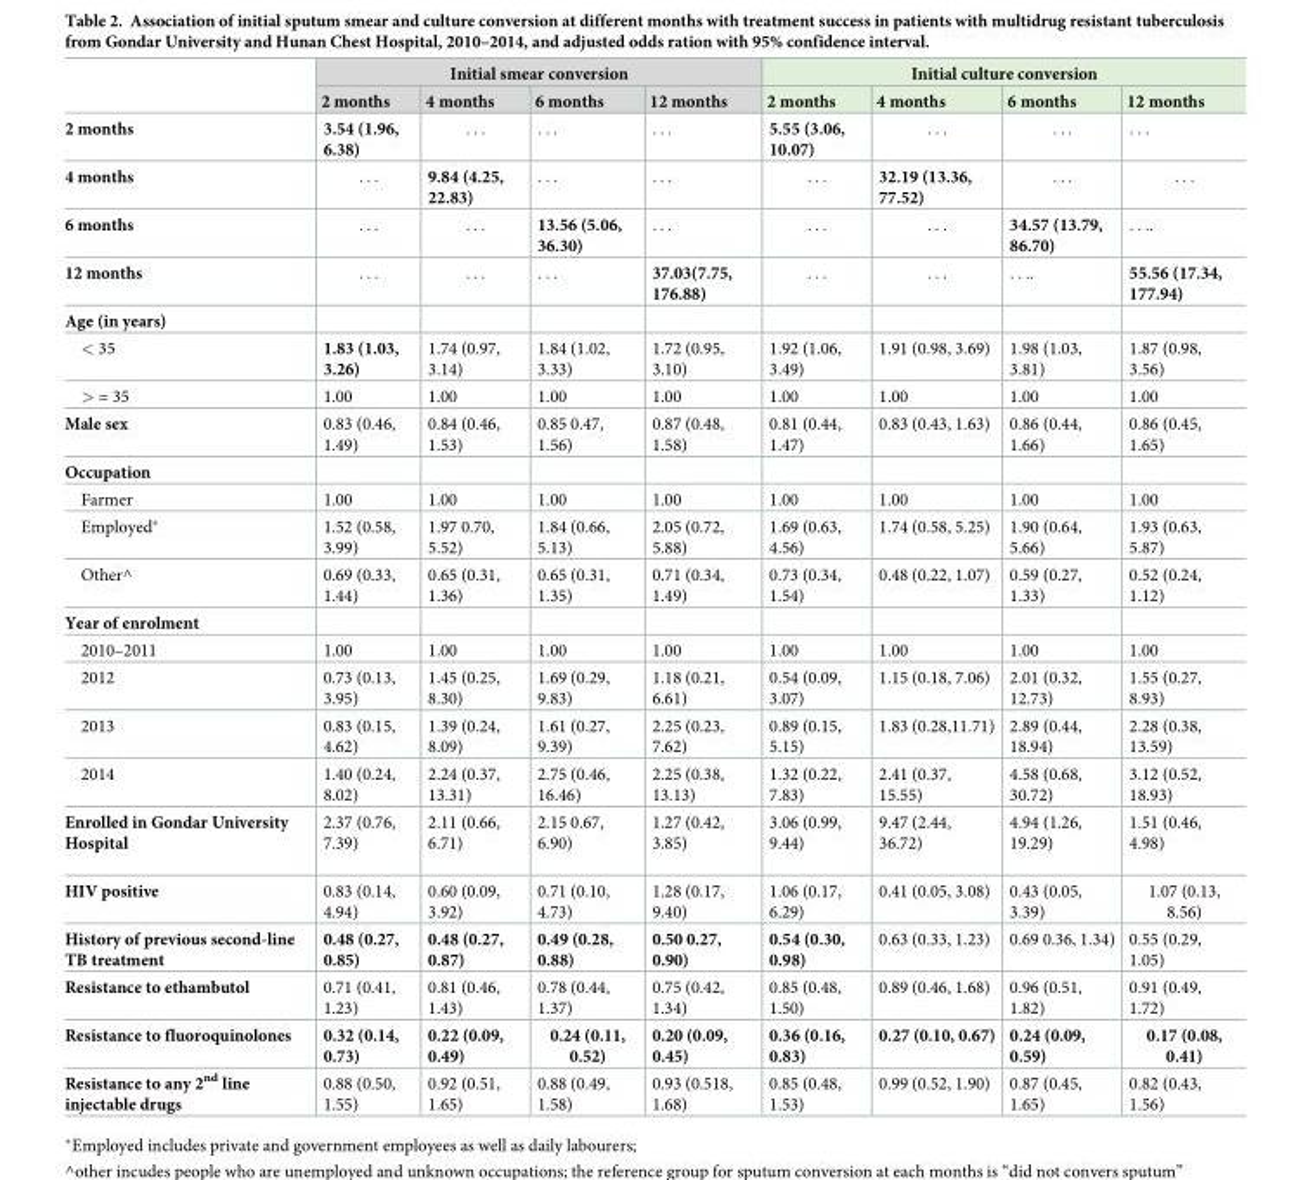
<table><thead><tr><td rowspan="2"></td><td colspan="4">Initial smear conversion</td><td colspan="4">Initial culture conversion</td></tr><tr><td>2 months</td><td>4 months</td><td>6 months</td><td>12 months</td><td>2 months</td><td>4 months</td><td>6 months</td><td>12 months</td></tr></thead><tbody><tr><td>2 months</td><td>3.54 (1.96, 6.38)</td><td>. . .</td><td>. . .</td><td>. . .</td><td>5.55 (3.06, 10.07)</td><td>. . .</td><td>. . .</td><td>. . .</td></tr><tr><td>4 months</td><td>. . .</td><td>9.84 (4.25, 22.83)</td><td>. . .</td><td>. . .</td><td>. . .</td><td>32.19 (13.36, 77.52)</td><td>. . .</td><td>. . .</td></tr><tr><td>6 months</td><td>. . .</td><td>. . .</td><td>13.56 (5.06, 36.30)</td><td>. . .</td><td>. . .</td><td>. . .</td><td>34.57 (13.79, 86.70)</td><td>. . ..</td></tr><tr><td>12 months</td><td>. . .</td><td>. . .</td><td>. . .</td><td>37.03(7.75, 176.88)</td><td>. . .</td><td>. . .</td><td>. . ..</td><td>55.56 (17.34, 177.94)</td></tr><tr><td colspan="9">Age (in years)</td></tr><tr><td>&lt; 35</td><td>1.83 (1.03, 3.26)</td><td>1.74 (0.97, 3.14)</td><td>1.84 (1.02, 3.33)</td><td>1.72 (0.95, 3.10)</td><td>1.92 (1.06, 3.49)</td><td>1.91 (0.98, 3.69)</td><td>1.98 (1.03, 3.81)</td><td>1.87 (0.98, 3.56)</td></tr><tr><td>&gt; = 35</td><td>1.00</td><td>1.00</td><td>1.00</td><td>1.00</td><td>1.00</td><td>1.00</td><td>1.00</td><td>1.00</td></tr><tr><td>Male sex</td><td>0.83 (0.46, 1.49)</td><td>0.84 (0.46, 1.53)</td><td>0.85 0.47, 1.56)</td><td>0.87 (0.48, 1.58)</td><td>0.81 (0.44, 1.47)</td><td>0.83 (0.43, 1.63)</td><td>0.86 (0.44, 1.66)</td><td>0.86 (0.45, 1.65)</td></tr><tr><td colspan="9">Occupation</td></tr><tr><td>Farmer</td><td>1.00</td><td>1.00</td><td>1.00</td><td>1.00</td><td>1.00</td><td>1.00</td><td>1.00</td><td>1.00</td></tr><tr><td>Employed*</td><td>1.52 (0.58, 3.99)</td><td>1.97 0.70, 5.52)</td><td>1.84 (0.66, 5.13)</td><td>2.05 (0.72, 5.88)</td><td>1.69 (0.63, 4.56)</td><td>1.74 (0.58, 5.25)</td><td>1.90 (0.64, 5.66)</td><td>1.93 (0.63, 5.87)</td></tr><tr><td>Other^</td><td>0.69 (0.33, 1.44)</td><td>0.65 (0.31, 1.36)</td><td>0.65 (0.31, 1.35)</td><td>0.71 (0.34, 1.49)</td><td>0.73 (0.34, 1.54)</td><td>0.48 (0.22, 1.07)</td><td>0.59 (0.27, 1.33)</td><td>0.52 (0.24, 1.12)</td></tr><tr><td colspan="9">Year of enrolment</td></tr><tr><td>2010–2011</td><td>1.00</td><td>1.00</td><td>1.00</td><td>1.00</td><td>1.00</td><td>1.00</td><td>1.00</td><td>1.00</td></tr><tr><td>2012</td><td>0.73 (0.13, 3.95)</td><td>1.45 (0.25, 8.30)</td><td>1.69 (0.29, 9.83)</td><td>1.18 (0.21, 6.61)</td><td>0.54 (0.09, 3.07)</td><td>1.15 (0.18, 7.06)</td><td>2.01 (0.32, 12.73)</td><td>1.55 (0.27, 8.93)</td></tr><tr><td>2013</td><td>0.83 (0.15, 4.62)</td><td>1.39 (0.24, 8.09)</td><td>1.61 (0.27, 9.39)</td><td>2.25 (0.23, 7.62)</td><td>0.89 (0.15, 5.15)</td><td>1.83 (0.28,11.71)</td><td>2.89 (0.44, 18.94)</td><td>2.28 (0.38, 13.59)</td></tr><tr><td>2014</td><td>1.40 (0.24, 8.02)</td><td>2.24 (0.37, 13.31)</td><td>2.75 (0.46, 16.46)</td><td>2.25 (0.38, 13.13)</td><td>1.32 (0.22, 7.83)</td><td>2.41 (0.37, 15.55)</td><td>4.58 (0.68, 30.72)</td><td>3.12 (0.52, 18.93)</td></tr><tr><td>Enrolled in Gondar University Hospital</td><td>2.37 (0.76, 7.39)</td><td>2.11 (0.66, 6.71)</td><td>2.15 0.67, 6.90)</td><td>1.27 (0.42, 3.85)</td><td>3.06 (0.99, 9.44)</td><td>9.47 (2.44, 36.72)</td><td>4.94 (1.26, 19.29)</td><td>1.51 (0.46, 4.98)</td></tr><tr><td>HIV positive</td><td>0.83 (0.14, 4.94)</td><td>0.60 (0.09, 3.92)</td><td>0.71 (0.10, 4.73)</td><td>1.28 (0.17, 9.40)</td><td>1.06 (0.17, 6.29)</td><td>0.41 (0.05, 3.08)</td><td>0.43 (0.05, 3.39)</td><td>1.07 (0.13, 8.56)</td></tr><tr><td>History of previous second-line TB treatment</td><td>0.48 (0.27, 0.85)</td><td>0.48 (0.27, 0.87)</td><td>0.49 (0.28, 0.88)</td><td>0.50 0.27, 0.90)</td><td>0.54 (0.30, 0.98)</td><td>0.63 (0.33, 1.23)</td><td>0.69 0.36, 1.34)</td><td>0.55 (0.29, 1.05)</td></tr><tr><td>Resistance to ethambutol</td><td>0.71 (0.41, 1.23)</td><td>0.81 (0.46, 1.43)</td><td>0.78 (0.44, 1.37)</td><td>0.75 (0.42, 1.34)</td><td>0.85 (0.48, 1.50)</td><td>0.89 (0.46, 1.68)</td><td>0.96 (0.51, 1.82)</td><td>0.91 (0.49, 1.72)</td></tr><tr><td>Resistance to fluoroquinolones</td><td>0.32 (0.14, 0.73)</td><td>0.22 (0.09, 0.49)</td><td>0.24 (0.11, 0.52)</td><td>0.20 (0.09, 0.45)</td><td>0.36 (0.16, 0.83)</td><td>0.27 (0.10, 0.67)</td><td>0.24 (0.09, 0.59)</td><td>0.17 (0.08, 0.41)</td></tr><tr><td>Resistance to any 2<sup>nd</sup> line injectable drugs</td><td>0.88 (0.50, 1.55)</td><td>0.92 (0.51, 1.65)</td><td>0.88 (0.49, 1.58)</td><td>0.93 (0.518, 1.68)</td><td>0.85 (0.48, 1.53)</td><td>0.99 (0.52, 1.90)</td><td>0.87 (0.45, 1.65)</td><td>0.82 (0.43, 1.56)</td></tr></tbody></table>